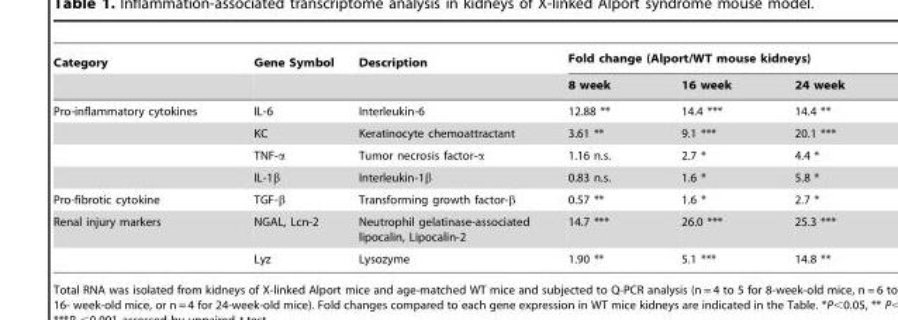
<table><thead><tr><td rowspan="2">Category</td><td rowspan="2">Gene Symbol</td><td rowspan="2">Description</td><td colspan="3">Fold change (Alport/WT mouse kidneys)</td></tr><tr><td>8 week</td><td>16 week</td><td>24 week</td></tr></thead><tbody><tr><td rowspan="4">Pro-inflammatory cytokines</td><td>IL-6</td><td>Interleukin-6</td><td>12.88 **</td><td>14.4 ***</td><td>14.4 **</td></tr><tr><td>KC</td><td>Keratinocyte chemoattractant</td><td>3.61 **</td><td>9.1 ***</td><td>20.1 ***</td></tr><tr><td>TNF-α</td><td>Tumor necrosis factor-α</td><td>1.16 n.s.</td><td>2.7 *</td><td>4.4 *</td></tr><tr><td>IL-1β</td><td>Interleukin-1β</td><td>0.83 n.s.</td><td>1.6 *</td><td>5.8 *</td></tr><tr><td>Pro-fibrotic cytokine</td><td>TGF-β</td><td>Transforming growth factor-β</td><td>0.57 **</td><td>1.6 *</td><td>2.7 *</td></tr><tr><td rowspan="2">Renal injury markers</td><td>NGAL, Lcn-2</td><td>Neutrophil gelatinase-associated lipocalin, Lipocalin-2</td><td>14.7 ***</td><td>26.0 ***</td><td>25.3 ***</td></tr><tr><td>Lyz</td><td>Lysozyme</td><td>1.90 **</td><td>5.1 ***</td><td>14.8 **</td></tr></tbody></table>